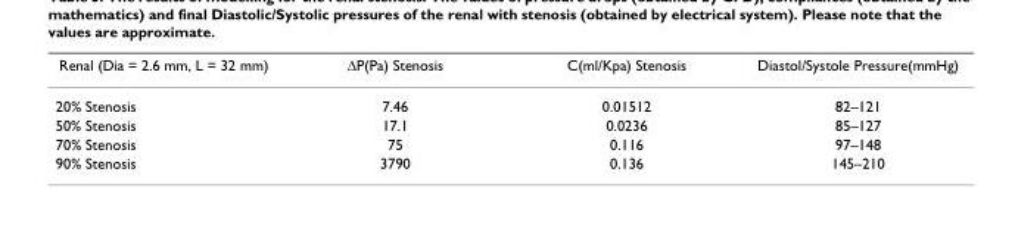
<table><thead><tr><td>Renal (Dia = 2.6 mm, L = 32 mm)</td><td>∆P(Pa) Stenosis</td><td>C(ml/Kpa) Stenosis</td><td>Diastol/Systole Pressure(mmHg)</td></tr></thead><tbody><tr><td>20% Stenosis</td><td>7.46</td><td>0.01512</td><td>82–121</td></tr><tr><td>50% Stenosis</td><td>17.1</td><td>0.0236</td><td>85–127</td></tr><tr><td>70% Stenosis</td><td>75</td><td>0.116</td><td>97–148</td></tr><tr><td>90% Stenosis</td><td>3790</td><td>0.136</td><td>145–210</td></tr></tbody></table>